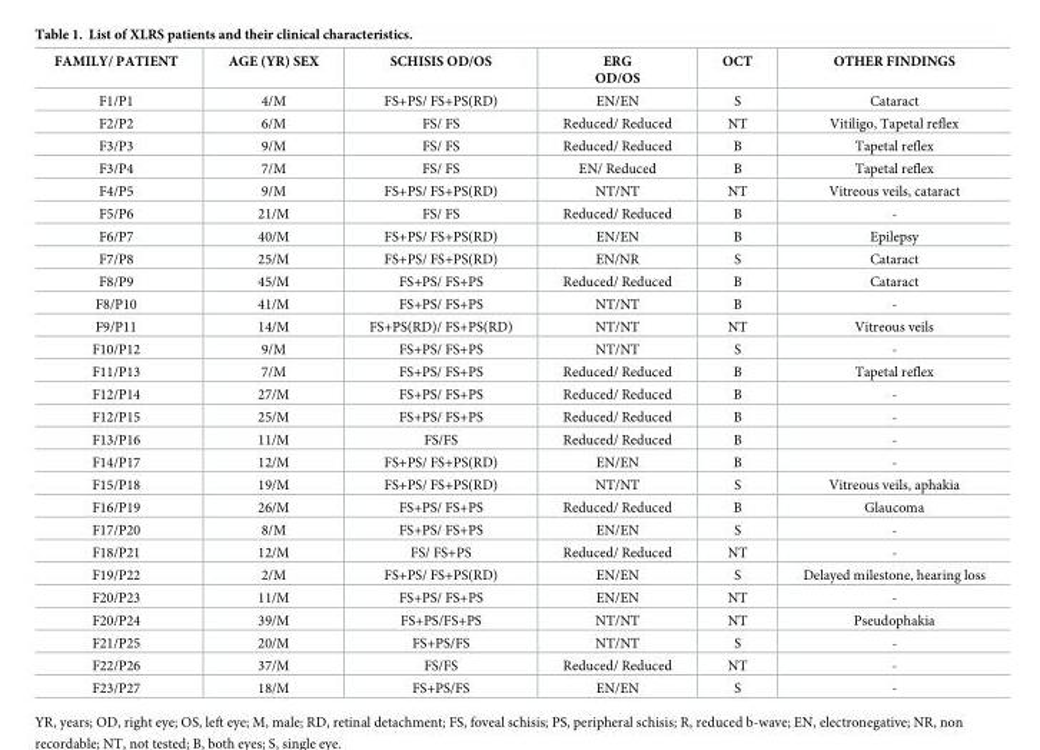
<table><thead><tr><td>FAMILY/ PATIENT</td><td>AGE (YR) SEX</td><td>SCHISIS OD/OS</td><td>ERG OD/OS</td><td>OCT</td><td>OTHER FINDINGS</td></tr></thead><tbody><tr><td>F1/P1</td><td>4/M</td><td>FS+PS/ FS+PS(RD)</td><td>EN/EN</td><td>S</td><td>Cataract</td></tr><tr><td>F2/P2</td><td>6/M</td><td>FS/ FS</td><td>Reduced/ Reduced</td><td>NT</td><td>Vitiligo, Tapetal reflex</td></tr><tr><td>F3/P3</td><td>9/M</td><td>FS/ FS</td><td>Reduced/ Reduced</td><td>B</td><td>Tapetal reflex</td></tr><tr><td>F3/P4</td><td>7/M</td><td>FS/ FS</td><td>EN/ Reduced</td><td>B</td><td>Tapetal reflex</td></tr><tr><td>F4/P5</td><td>9/M</td><td>FS+PS/ FS+PS(RD)</td><td>NT/NT</td><td>NT</td><td>Vitreous veils, cataract</td></tr><tr><td>F5/P6</td><td>21/M</td><td>FS/ FS</td><td>Reduced/ Reduced</td><td>B</td><td>-</td></tr><tr><td>F6/P7</td><td>40/M</td><td>FS+PS/ FS+PS(RD)</td><td>EN/EN</td><td>B</td><td>Epilepsy</td></tr><tr><td>F7/P8</td><td>25/M</td><td>FS+PS/ FS+PS(RD)</td><td>EN/NR</td><td>S</td><td>Cataract</td></tr><tr><td>F8/P9</td><td>45/M</td><td>FS+PS/ FS+PS</td><td>Reduced/ Reduced</td><td>B</td><td>Cataract</td></tr><tr><td>F8/P10</td><td>41/M</td><td>FS+PS/ FS+PS</td><td>NT/NT</td><td>B</td><td>-</td></tr><tr><td>F9/P11</td><td>14/M</td><td>FS+PS(RD)/ FS+PS(RD)</td><td>NT/NT</td><td>NT</td><td>Vitreous veils</td></tr><tr><td>F10/P12</td><td>9/M</td><td>FS+PS/ FS+PS</td><td>NT/NT</td><td>S</td><td>-</td></tr><tr><td>F11/P13</td><td>7/M</td><td>FS+PS/ FS+PS</td><td>Reduced/ Reduced</td><td>B</td><td>Tapetal reflex</td></tr><tr><td>F12/P14</td><td>27/M</td><td>FS+PS/ FS+PS</td><td>Reduced/ Reduced</td><td>B</td><td>-</td></tr><tr><td>F12/P15</td><td>25/M</td><td>FS+PS/ FS+PS</td><td>Reduced/ Reduced</td><td>B</td><td>-</td></tr><tr><td>F13/P16</td><td>11/M</td><td>FS/FS</td><td>Reduced/ Reduced</td><td>B</td><td>-</td></tr><tr><td>F14/P17</td><td>12/M</td><td>FS+PS/ FS+PS(RD)</td><td>EN/EN</td><td>B</td><td>-</td></tr><tr><td>F15/P18</td><td>19/M</td><td>FS+PS/ FS+PS(RD)</td><td>NT/NT</td><td>S</td><td>Vitreous veils, aphakia</td></tr><tr><td>F16/P19</td><td>26/M</td><td>FS+PS/ FS+PS</td><td>Reduced/ Reduced</td><td>B</td><td>Glaucoma</td></tr><tr><td>F17/P20</td><td>8/M</td><td>FS+PS/ FS+PS</td><td>EN/EN</td><td>S</td><td>-</td></tr><tr><td>F18/P21</td><td>12/M</td><td>FS/ FS+PS</td><td>Reduced/ Reduced</td><td>NT</td><td>-</td></tr><tr><td>F19/P22</td><td>2/M</td><td>FS+PS/ FS+PS(RD)</td><td>EN/EN</td><td>S</td><td>Delayed milestone, hearing loss</td></tr><tr><td>F20/P23</td><td>11/M</td><td>FS+PS/ FS+PS</td><td>EN/EN</td><td>NT</td><td>-</td></tr><tr><td>F20/P24</td><td>39/M</td><td>FS+PS/FS+PS</td><td>NT/NT</td><td>NT</td><td>Pseudophakia</td></tr><tr><td>F21/P25</td><td>20/M</td><td>FS+PS/FS</td><td>NT/NT</td><td>S</td><td>-</td></tr><tr><td>F22/P26</td><td>37/M</td><td>FS/FS</td><td>Reduced/ Reduced</td><td>NT</td><td>-</td></tr><tr><td>F23/P27</td><td>18/M</td><td>FS+PS/FS</td><td>EN/EN</td><td>S</td><td>-</td></tr></tbody></table>